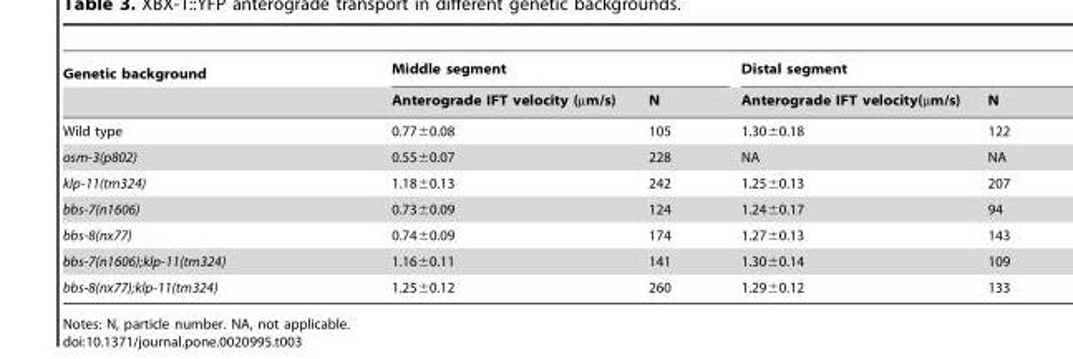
<table><thead><tr><td rowspan="2">Genetic background</td><td colspan="2">Middle segment</td><td colspan="2">Distal segment</td></tr><tr><td>Anterograde IFT velocity (µm/s)</td><td>N</td><td>Anterograde IFT velocity(µm/s)</td><td>N</td></tr></thead><tbody><tr><td>Wild type</td><td>0.77±0.08</td><td>105</td><td>1.30±0.18</td><td>122</td></tr><tr><td>osm-3(p802)</td><td>0.55±0.07</td><td>228</td><td>NA</td><td>NA</td></tr><tr><td>klp-11(tm324)</td><td>1.18±0.13</td><td>242</td><td>1.25±0.13</td><td>207</td></tr><tr><td>bbs-7(n1606)</td><td>0.73±0.09</td><td>124</td><td>1.24±0.17</td><td>94</td></tr><tr><td>bbs-8(nx77)</td><td>0.74±0.09</td><td>174</td><td>1.27±0.13</td><td>143</td></tr><tr><td>bbs-7(n1606);klp-11(tm324)</td><td>1.16±0.11</td><td>141</td><td>1.30±0.14</td><td>109</td></tr><tr><td>bbs-8(nx77);klp-11(tm324)</td><td>1.25±0.12</td><td>260</td><td>1.29±0.12</td><td>133</td></tr></tbody></table>